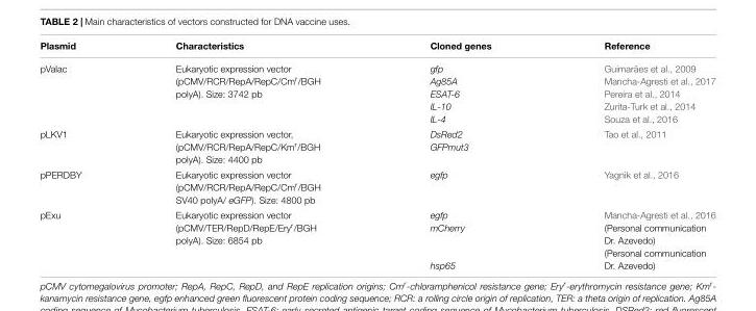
<table><thead><tr><td>Plasmid</td><td>Characteristics</td><td>Cloned genes</td><td>Reference</td></tr></thead><tbody><tr><td>pValac</td><td>Eukaryotic expression vector (pCMV/RCR/RepA/RepC/Cm<sup>r</sup>/BGH polyA). Size: 3742 pb</td><td>gfp Ag85A ESAT-6 IL-10 IL-4</td><td>Guimarães et al., 2009 Mancha-Agresti et al., 2017 Pereira et al., 2014 Zurita-Turk et al., 2014 Souza et al., 2016</td></tr><tr><td>pLKV1</td><td>Eukaryotic expression vector, (pCMV/RCR/RepA/RepC/Km<sup>r</sup>/BGH polyA). Size: 4400 pb</td><td>DsRed2 GFPmut3</td><td>Tao et al., 2011</td></tr><tr><td>pPERDBY</td><td>Eukaryotic expression vector (pCMV/RCR/RepA/RepC/Cm<sup>r</sup>/BGH SV40 polyA/ eGFP). Size: 4800 pb</td><td>egfp</td><td>Yagnik et al., 2016</td></tr><tr><td>pExu</td><td>Eukaryotic expression vector (pCMV/TER/RepD/RepE/Ery<sup>r</sup>/BGH polyA). Size: 6854 pb</td><td>egfp mCherry hsp65</td><td>Mancha-Agresti et al., 2016 (Personal communication Dr. Azevedo) (Personal communication Dr. Azevedo)</td></tr></tbody></table>